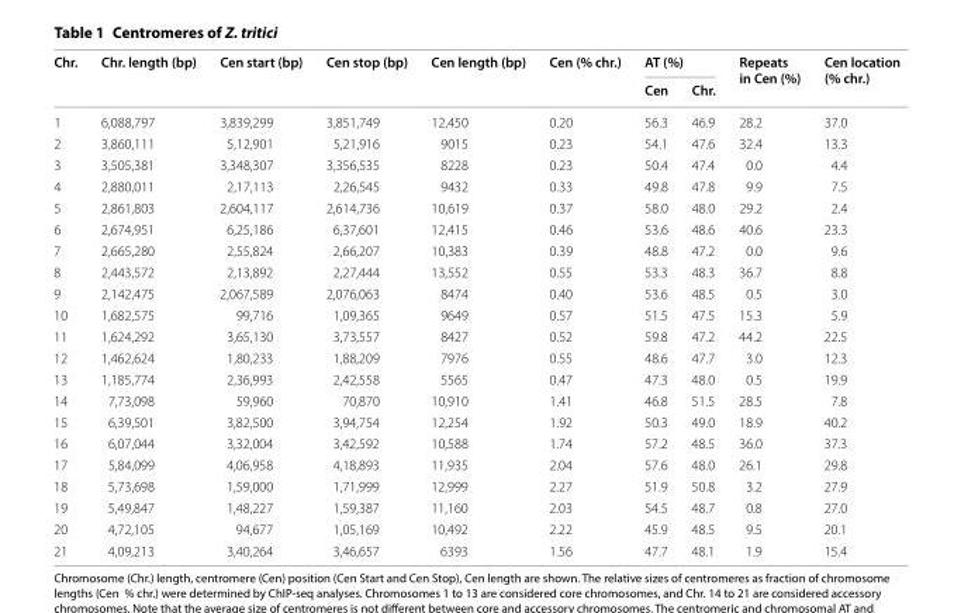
<table><thead><tr><td rowspan="2">Chr.</td><td rowspan="2">Chr. length (bp)</td><td rowspan="2">Cen start (bp)</td><td rowspan="2">Cen stop (bp)</td><td rowspan="2">Cen length (bp)</td><td rowspan="2">Cen (% chr.)</td><td colspan="2">AT (%)</td><td rowspan="2">Repeats in Cen (%)</td><td rowspan="2">Cen location (% chr.)</td></tr><tr><td>Cen</td><td>Chr.</td></tr></thead><tbody><tr><td>1</td><td>6,088,797</td><td>3,839,299</td><td>3,851,749</td><td>12,450</td><td>0.20</td><td>56.3</td><td>46.9</td><td>28.2</td><td>37.0</td></tr><tr><td>2</td><td>3,860,111</td><td>5,12,901</td><td>5,21,916</td><td>9015</td><td>0.23</td><td>54.1</td><td>47.6</td><td>32.4</td><td>13.3</td></tr><tr><td>3</td><td>3,505,381</td><td>3,348,307</td><td>3,356,535</td><td>8228</td><td>0.23</td><td>50.4</td><td>47.4</td><td>0.0</td><td>4.4</td></tr><tr><td>4</td><td>2,880,011</td><td>2,17,113</td><td>2,26,545</td><td>9432</td><td>0.33</td><td>49.8</td><td>47.8</td><td>9.9</td><td>7.5</td></tr><tr><td>5</td><td>2,861,803</td><td>2,604,117</td><td>2,614,736</td><td>10,619</td><td>0.37</td><td>58.0</td><td>48.0</td><td>29.2</td><td>2.4</td></tr><tr><td>6</td><td>2,674,951</td><td>6,25,186</td><td>6,37,601</td><td>12,415</td><td>0.46</td><td>53.6</td><td>48.6</td><td>40.6</td><td>23.3</td></tr><tr><td>7</td><td>2,665,280</td><td>2,55,824</td><td>2,66,207</td><td>10,383</td><td>0.39</td><td>48.8</td><td>47.2</td><td>0.0</td><td>9.6</td></tr><tr><td>8</td><td>2,443,572</td><td>2,13,892</td><td>2,27,444</td><td>13,552</td><td>0.55</td><td>53.3</td><td>48.3</td><td>36.7</td><td>8.8</td></tr><tr><td>9</td><td>2,142,475</td><td>2,067,589</td><td>2,076,063</td><td>8474</td><td>0.40</td><td>53.6</td><td>48.5</td><td>0.5</td><td>3.0</td></tr><tr><td>10</td><td>1,682,575</td><td>99,716</td><td>1,09,365</td><td>9649</td><td>0.57</td><td>51.5</td><td>47.5</td><td>15.3</td><td>5.9</td></tr><tr><td>11</td><td>1,624,292</td><td>3,65,130</td><td>3,73,557</td><td>8427</td><td>0.52</td><td>59.8</td><td>47.2</td><td>44.2</td><td>22.5</td></tr><tr><td>12</td><td>1,462,624</td><td>1,80,233</td><td>1,88,209</td><td>7976</td><td>0.55</td><td>48.6</td><td>47.7</td><td>3.0</td><td>12.3</td></tr><tr><td>13</td><td>1,185,774</td><td>2,36,993</td><td>2,42,558</td><td>5565</td><td>0.47</td><td>47.3</td><td>48.0</td><td>0.5</td><td>19.9</td></tr><tr><td>14</td><td>7,73,098</td><td>59,960</td><td>70,870</td><td>10,910</td><td>1.41</td><td>46.8</td><td>51.5</td><td>28.5</td><td>7.8</td></tr><tr><td>15</td><td>6,39,501</td><td>3,82,500</td><td>3,94,754</td><td>12,254</td><td>1.92</td><td>50.3</td><td>49.0</td><td>18.9</td><td>40.2</td></tr><tr><td>16</td><td>6,07,044</td><td>3,32,004</td><td>3,42,592</td><td>10,588</td><td>1.74</td><td>57.2</td><td>48.5</td><td>36.0</td><td>37.3</td></tr><tr><td>17</td><td>5,84,099</td><td>4,06,958</td><td>4,18,893</td><td>11,935</td><td>2.04</td><td>57.6</td><td>48.0</td><td>26.1</td><td>29.8</td></tr><tr><td>18</td><td>5,73,698</td><td>1,59,000</td><td>1,71,999</td><td>12,999</td><td>2.27</td><td>51.9</td><td>50.8</td><td>3.2</td><td>27.9</td></tr><tr><td>19</td><td>5,49,847</td><td>1,48,227</td><td>1,59,387</td><td>11,160</td><td>2.03</td><td>54.5</td><td>48.7</td><td>0.8</td><td>27.0</td></tr><tr><td>20</td><td>4,72,105</td><td>94,677</td><td>1,05,169</td><td>10,492</td><td>2.22</td><td>45.9</td><td>48.5</td><td>9.5</td><td>20.1</td></tr><tr><td>21</td><td>4,09,213</td><td>3,40,264</td><td>3,46,657</td><td>6393</td><td>1.56</td><td>47.7</td><td>48.1</td><td>1.9</td><td>15.4</td></tr></tbody></table>